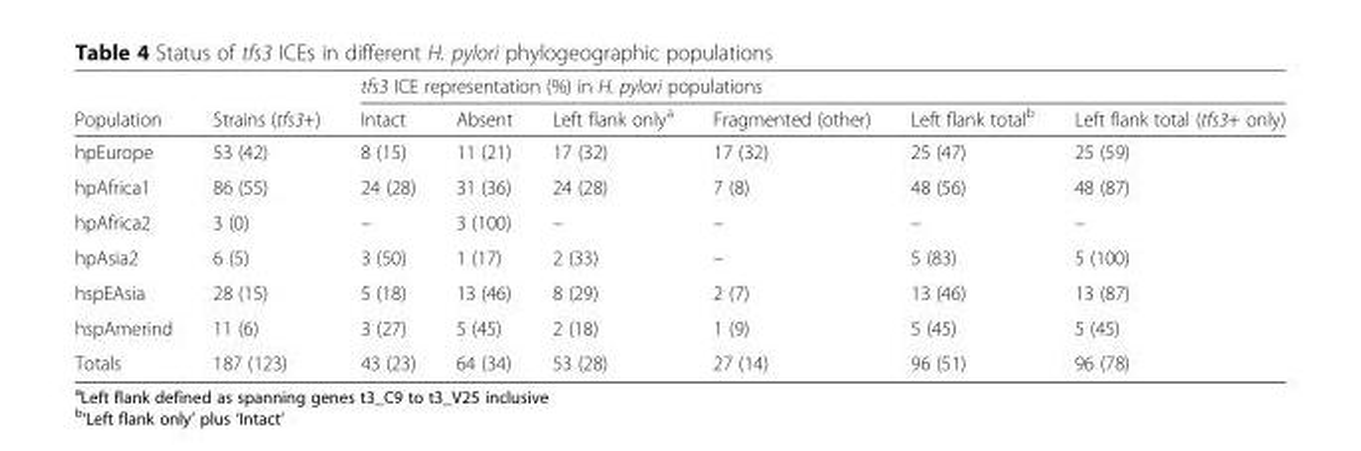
<table><thead><tr><td rowspan="2">Population</td><td rowspan="2">Strains (tfs3+)</td><td colspan="6">tfs3 ICE representation (%) in H. pylori populations</td></tr><tr><td>Intact</td><td>Absent</td><td>Left flank only<sup>a</sup></td><td>Fragmented (other)</td><td>Left flank total<sup>b</sup></td><td>Left flank total (tfs3+ only)</td></tr></thead><tbody><tr><td>hpEurope</td><td>53 (42)</td><td>8 (15)</td><td>11 (21)</td><td>17 (32)</td><td>17 (32)</td><td>25 (47)</td><td>25 (59)</td></tr><tr><td>hpAfrica1</td><td>86 (55)</td><td>24 (28)</td><td>31 (36)</td><td>24 (28)</td><td>7 (8)</td><td>48 (56)</td><td>48 (87)</td></tr><tr><td>hpAfrica2</td><td>3 (0)</td><td>–</td><td>3 (100)</td><td>–</td><td>–</td><td>–</td><td>–</td></tr><tr><td>hpAsia2</td><td>6 (5)</td><td>3 (50)</td><td>1 (17)</td><td>2 (33)</td><td>–</td><td>5 (83)</td><td>5 (100)</td></tr><tr><td>hspEAsia</td><td>28 (15)</td><td>5 (18)</td><td>13 (46)</td><td>8 (29)</td><td>2 (7)</td><td>13 (46)</td><td>13 (87)</td></tr><tr><td>hspAmerind</td><td>11 (6)</td><td>3 (27)</td><td>5 (45)</td><td>2 (18)</td><td>1 (9)</td><td>5 (45)</td><td>5 (45)</td></tr><tr><td>Totals</td><td>187 (123)</td><td>43 (23)</td><td>64 (34)</td><td>53 (28)</td><td>27 (14)</td><td>96 (51)</td><td>96 (78)</td></tr></tbody></table>